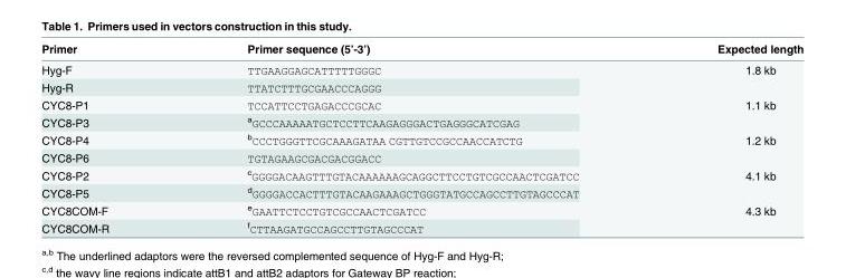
<table><thead><tr><td>Primer</td><td>Primer sequence (5’-3’)</td><td>Expected length</td></tr></thead><tbody><tr><td>Hyg-F</td><td>TTGAAGGAGCATTTTTGGGC</td><td rowspan="2">1.8 kb</td></tr><tr><td>Hyg-R</td><td>TTATCTTTGCGAACCCAGGG</td></tr><tr><td>CYC8-P1</td><td>TCCATTCCTGAGACCCGCAC</td><td rowspan="2">1.1 kb</td></tr><tr><td>CYC8-P3</td><td><sup>a</sup>GCCCAAAAATGCTCCTTCAAGAGGGACTGAGGGCATCGAG</td></tr><tr><td>CYC8-P4</td><td><sup>b</sup>CCCTGGGTTCGCAAAGATAA CGTTGTCCGCCAACCATCTG</td><td rowspan="2">1.2 kb</td></tr><tr><td>CYC8-P6</td><td>TGTAGAAGCGACGACGGACC</td></tr><tr><td>CYC8-P2</td><td><sup>c</sup>GGGGACAAGTTTGTACAAAAAAGCAGGCTTCCTGTCGCCAACTCGATCC</td><td rowspan="2">4.1 kb</td></tr><tr><td>CYC8-P5</td><td><sup>d</sup>GGGGACCACTTTGTACAAGAAAGCTGGGTATGCCAGCCTTGTAGCCCAT</td></tr><tr><td>CYC8COM-F</td><td><sup>e</sup>GAATTCTCCTGTCGCCAACTCGATCC</td><td rowspan="2">4.3 kb</td></tr><tr><td>CYC8COM-R</td><td><sup>f</sup>CTTAAGATGCCAGCCTTGTAGCCCAT</td></tr></tbody></table>